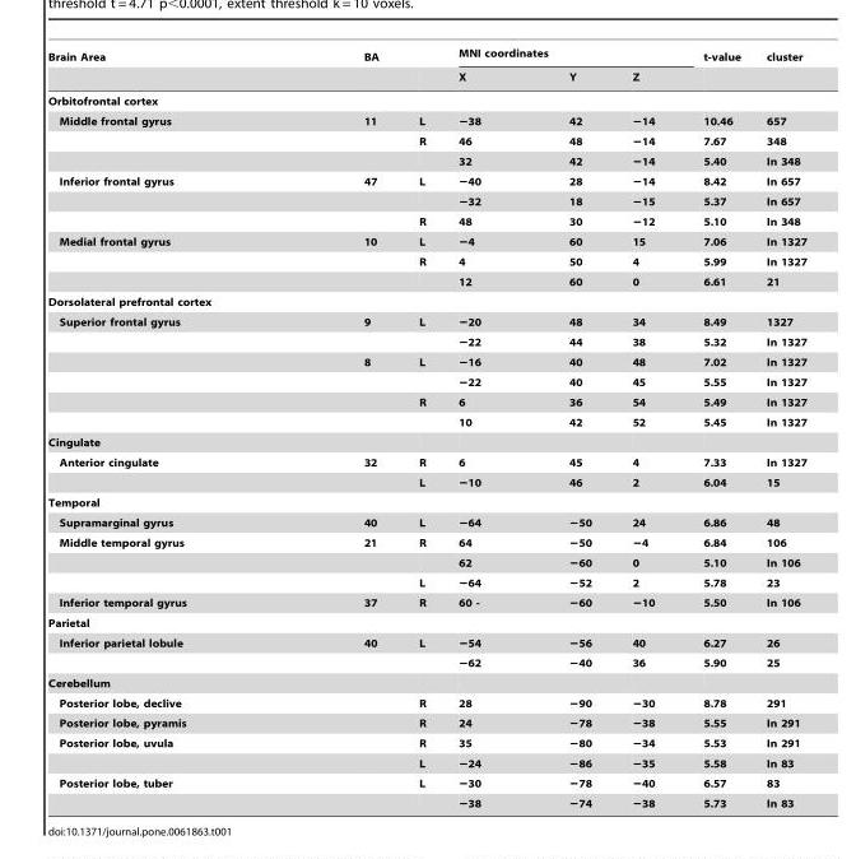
<table><thead><tr><td rowspan="2">Brain Area</td><td rowspan="2">BA</td><td rowspan="2"></td><td colspan="3">MNI coordinates</td><td rowspan="2">t-value</td><td rowspan="2">cluster</td></tr><tr><td>X</td><td>Y</td><td>Z</td></tr></thead><tbody><tr><td colspan="8">Orbitofrontal cortex</td></tr><tr><td rowspan="3">Middle frontal gyrus</td><td>11</td><td>L</td><td>−38</td><td>42</td><td>−14</td><td>10.46</td><td>657</td></tr><tr><td></td><td>R</td><td>46</td><td>48</td><td>−14</td><td>7.67</td><td>348</td></tr><tr><td></td><td></td><td>32</td><td>42</td><td>−14</td><td>5.40</td><td>In 348</td></tr><tr><td rowspan="3">Inferior frontal gyrus</td><td>47</td><td>L</td><td>−40</td><td>28</td><td>−14</td><td>8.42</td><td>In 657</td></tr><tr><td></td><td></td><td>−32</td><td>18</td><td>−15</td><td>5.37</td><td>In 657</td></tr><tr><td></td><td>R</td><td>48</td><td>30</td><td>−12</td><td>5.10</td><td>In 348</td></tr><tr><td rowspan="3">Medial frontal gyrus</td><td>10</td><td>L</td><td>−4</td><td>60</td><td>15</td><td>7.06</td><td>In 1327</td></tr><tr><td></td><td>R</td><td>4</td><td>50</td><td>4</td><td>5.99</td><td>In 1327</td></tr><tr><td></td><td></td><td>12</td><td>60</td><td>0</td><td>6.61</td><td>21</td></tr><tr><td colspan="8">Dorsolateral prefrontal cortex</td></tr><tr><td rowspan="6">Superior frontal gyrus</td><td>9</td><td>L</td><td>−20</td><td>48</td><td>34</td><td>8.49</td><td>1327</td></tr><tr><td></td><td></td><td>−22</td><td>44</td><td>38</td><td>5.32</td><td>In 1327</td></tr><tr><td>8</td><td>L</td><td>−16</td><td>40</td><td>48</td><td>7.02</td><td>In 1327</td></tr><tr><td></td><td></td><td>−22</td><td>40</td><td>45</td><td>5.55</td><td>In 1327</td></tr><tr><td></td><td>R</td><td>6</td><td>36</td><td>54</td><td>5.49</td><td>In 1327</td></tr><tr><td></td><td></td><td>10</td><td>42</td><td>52</td><td>5.45</td><td>In 1327</td></tr><tr><td colspan="8">Cingulate</td></tr><tr><td rowspan="2">Anterior cingulate</td><td>32</td><td>R</td><td>6</td><td>45</td><td>4</td><td>7.33</td><td>In 1327</td></tr><tr><td></td><td>L</td><td>−10</td><td>46</td><td>2</td><td>6.04</td><td>15</td></tr><tr><td colspan="8">Temporal</td></tr><tr><td>Supramarginal gyrus</td><td>40</td><td>L</td><td>−64</td><td>−50</td><td>24</td><td>6.86</td><td>48</td></tr><tr><td rowspan="3">Middle temporal gyrus</td><td>21</td><td>R</td><td>64</td><td>−50</td><td>−4</td><td>6.84</td><td>106</td></tr><tr><td></td><td></td><td>62</td><td>−60</td><td>0</td><td>5.10</td><td>In 106</td></tr><tr><td></td><td>L</td><td>−64</td><td>−52</td><td>2</td><td>5.78</td><td>23</td></tr><tr><td>Inferior temporal gyrus</td><td>37</td><td>R</td><td>60 -</td><td>−60</td><td>−10</td><td>5.50</td><td>In 106</td></tr><tr><td colspan="8">Parietal</td></tr><tr><td rowspan="2">Inferior parietal lobule</td><td>40</td><td>L</td><td>−54</td><td>−56</td><td>40</td><td>6.27</td><td>26</td></tr><tr><td></td><td></td><td>−62</td><td>−40</td><td>36</td><td>5.90</td><td>25</td></tr><tr><td colspan="8">Cerebellum</td></tr><tr><td>Posterior lobe, declive</td><td></td><td>R</td><td>28</td><td>−90</td><td>−30</td><td>8.78</td><td>291</td></tr><tr><td>Posterior lobe, pyramis</td><td></td><td>R</td><td>24</td><td>−78</td><td>−38</td><td>5.55</td><td>In 291</td></tr><tr><td rowspan="2">Posterior lobe, uvula</td><td></td><td>R</td><td>35</td><td>−80</td><td>−34</td><td>5.53</td><td>In 291</td></tr><tr><td></td><td>L</td><td>−24</td><td>−86</td><td>−35</td><td>5.58</td><td>In 83</td></tr><tr><td rowspan="2">Posterior lobe, tuber</td><td></td><td>L</td><td>−30</td><td>−78</td><td>−40</td><td>6.57</td><td>83</td></tr><tr><td></td><td></td><td>−38</td><td>−74</td><td>−38</td><td>5.73</td><td>In 83</td></tr></tbody></table>